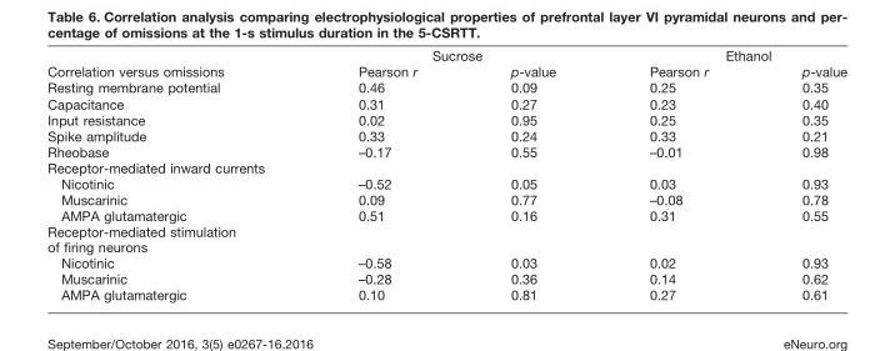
<table><thead><tr><td rowspan="2">Correlation versus omissions</td><td colspan="2">Sucrose</td><td colspan="2">Ethanol</td></tr><tr><td>Pearson r</td><td>p-value</td><td>Pearson r</td><td>p-value</td></tr></thead><tbody><tr><td>Resting membrane potential</td><td>0.46</td><td>0.09</td><td>0.25</td><td>0.35</td></tr><tr><td>Capacitance</td><td>0.31</td><td>0.27</td><td>0.23</td><td>0.40</td></tr><tr><td>Input resistance</td><td>0.02</td><td>0.95</td><td>0.25</td><td>0.35</td></tr><tr><td>Spike amplitude</td><td>0.33</td><td>0.24</td><td>0.33</td><td>0.21</td></tr><tr><td>Rheobase</td><td>–0.17</td><td>0.55</td><td>–0.01</td><td>0.98</td></tr><tr><td colspan="5">Receptor-mediated inward currents</td></tr><tr><td>Nicotinic</td><td>–0.52</td><td>0.05</td><td>0.03</td><td>0.93</td></tr><tr><td>Muscarinic</td><td>0.09</td><td>0.77</td><td>–0.08</td><td>0.78</td></tr><tr><td>AMPA glutamatergic</td><td>0.51</td><td>0.16</td><td>0.31</td><td>0.55</td></tr><tr><td colspan="5">Receptor-mediated stimulation of firing neurons</td></tr><tr><td>Nicotinic</td><td>–0.58</td><td>0.03</td><td>0.02</td><td>0.93</td></tr><tr><td>Muscarinic</td><td>–0.28</td><td>0.36</td><td>0.14</td><td>0.62</td></tr><tr><td>AMPA glutamatergic</td><td>0.10</td><td>0.81</td><td>0.27</td><td>0.61</td></tr></tbody></table>